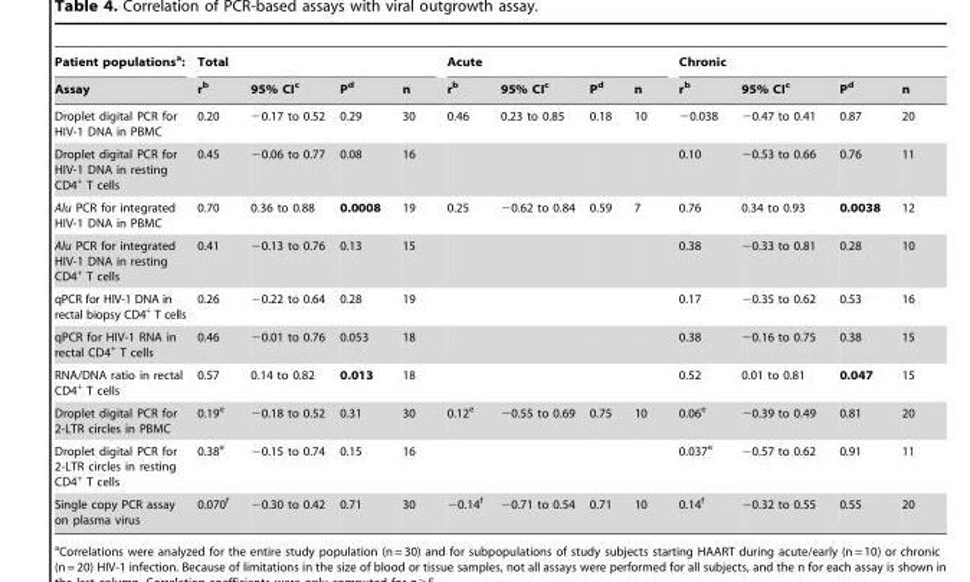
<table><thead><tr><td rowspan="2">Patient populations<sup>a</sup>: Assay</td><td colspan="4">Total</td><td colspan="4">Acute</td><td colspan="4">Chronic</td></tr><tr><td>r<sup>b</sup></td><td>95% CI<sup>c</sup></td><td>P<sup>d</sup></td><td>n</td><td>r<sup>b</sup></td><td>95% CI<sup>c</sup></td><td>P<sup>d</sup></td><td>n</td><td>r<sup>b</sup></td><td>95% CI<sup>c</sup></td><td>P<sup>d</sup></td><td>n</td></tr></thead><tbody><tr><td>Droplet digital PCR for HIV-1 DNA in PBMC</td><td>0.20</td><td>−0.17 to 0.52</td><td>0.29</td><td>30</td><td>0.46</td><td>0.23 to 0.85</td><td>0.18</td><td>10</td><td>−0.038</td><td>−0.47 to 0.41</td><td>0.87</td><td>20</td></tr><tr><td>Droplet digital PCR for HIV-1 DNA in resting CD4<sup>+</sup> T cells</td><td>0.45</td><td>−0.06 to 0.77</td><td>0.08</td><td>16</td><td></td><td></td><td></td><td></td><td>0.10</td><td>−0.53 to 0.66</td><td>0.76</td><td>11</td></tr><tr><td>Alu PCR for integrated HIV-1 DNA in PBMC</td><td>0.70</td><td>0.36 to 0.88</td><td>0.0008</td><td>19</td><td>0.25</td><td>−0.62 to 0.84</td><td>0.59</td><td>7</td><td>0.76</td><td>0.34 to 0.93</td><td>0.0038</td><td>12</td></tr><tr><td>Alu PCR for integrated HIV-1 DNA in resting CD4<sup>+</sup> T cells</td><td>0.41</td><td>−0.13 to 0.76</td><td>0.13</td><td>15</td><td></td><td></td><td></td><td></td><td>0.38</td><td>−0.33 to 0.81</td><td>0.28</td><td>10</td></tr><tr><td>qPCR for HIV-1 DNA in rectal biopsy CD4<sup>+</sup> T cells</td><td>0.26</td><td>−0.22 to 0.64</td><td>0.28</td><td>19</td><td></td><td></td><td></td><td></td><td>0.17</td><td>−0.35 to 0.62</td><td>0.53</td><td>16</td></tr><tr><td>qPCR for HIV-1 RNA in rectal CD4<sup>+</sup> T cells</td><td>0.46</td><td>−0.01 to 0.76</td><td>0.053</td><td>18</td><td></td><td></td><td></td><td></td><td>0.38</td><td>−0.16 to 0.75</td><td>0.38</td><td>15</td></tr><tr><td>RNA/DNA ratio in rectal CD4<sup>+</sup> T cells</td><td>0.57</td><td>0.14 to 0.82</td><td>0.013</td><td>18</td><td></td><td></td><td></td><td></td><td>0.52</td><td>0.01 to 0.81</td><td>0.047</td><td>15</td></tr><tr><td>Droplet digital PCR for 2-LTR circles in PBMC</td><td>0.19<sup>e</sup></td><td>−0.18 to 0.52</td><td>0.31</td><td>30</td><td>0.12<sup>e</sup></td><td>−0.55 to 0.69</td><td>0.75</td><td>10</td><td>0.06<sup>e</sup></td><td>−0.39 to 0.49</td><td>0.81</td><td>20</td></tr><tr><td>Droplet digital PCR for 2-LTR circles in resting CD4<sup>+</sup> T cells</td><td>0.38<sup>e</sup></td><td>−0.15 to 0.74</td><td>0.15</td><td>16</td><td></td><td></td><td></td><td></td><td>0.037<sup>e</sup></td><td>−0.57 to 0.62</td><td>0.91</td><td>11</td></tr><tr><td>Single copy PCR assay on plasma virus</td><td>0.070<sup>f</sup></td><td>−0.30 to 0.42</td><td>0.71</td><td>30</td><td>−0.14<sup>f</sup></td><td>−0.71 to 0.54</td><td>0.71</td><td>10</td><td>0.14<sup>f</sup></td><td>−0.32 to 0.55</td><td>0.55</td><td>20</td></tr></tbody></table>